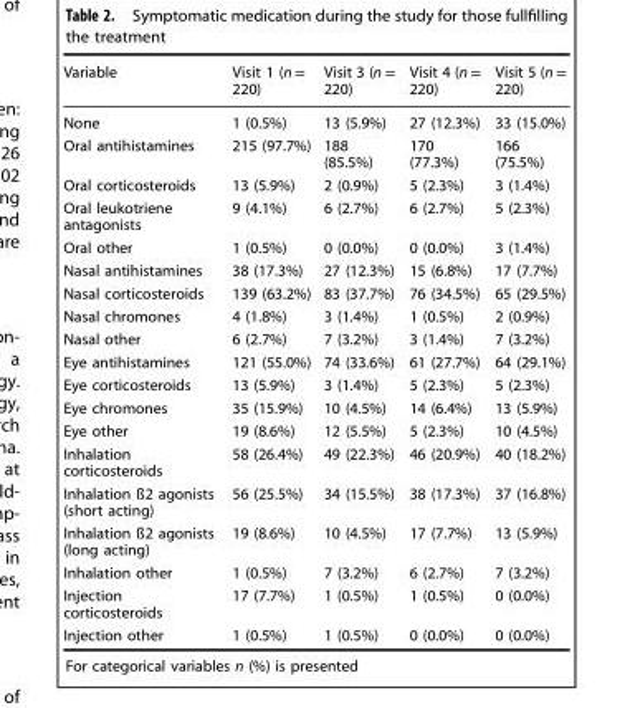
<table><thead><tr><td>Variable</td><td>Visit 1 (n = 220)</td><td>Visit 3 (n = 220)</td><td>Visit 4 (n = 220)</td><td>Visit 5 (n = 220)</td></tr></thead><tbody><tr><td>None</td><td>1 (0.5%)</td><td>13 (5.9%)</td><td>27 (12.3%)</td><td>33 (15.0%)</td></tr><tr><td>Oral antihistamines</td><td>215 (97.7%)</td><td>188 (85.5%)</td><td>170 (77.3%)</td><td>166 (75.5%)</td></tr><tr><td>Oral corticosteroids</td><td>13 (5.9%)</td><td>2 (0.9%)</td><td>5 (2.3%)</td><td>3 (1.4%)</td></tr><tr><td>Oral leukotriene antagonists</td><td>9 (4.1%)</td><td>6 (2.7%)</td><td>6 (2.7%)</td><td>5 (2.3%)</td></tr><tr><td>Oral other</td><td>1 (0.5%)</td><td>0 (0.0%)</td><td>0 (0.0%)</td><td>3 (1.4%)</td></tr><tr><td>Nasal antihistamines</td><td>38 (17.3%)</td><td>27 (12.3%)</td><td>15 (6.8%)</td><td>17 (7.7%)</td></tr><tr><td>Nasal corticosteroids</td><td>139 (63.2%)</td><td>83 (37.7%)</td><td>76 (34.5%)</td><td>65 (29.5%)</td></tr><tr><td>Nasal chromones</td><td>4 (1.8%)</td><td>3 (1.4%)</td><td>1 (0.5%)</td><td>2 (0.9%)</td></tr><tr><td>Nasal other</td><td>6 (2.7%)</td><td>7 (3.2%)</td><td>3 (1.4%)</td><td>7 (3.2%)</td></tr><tr><td>Eye antihistamines</td><td>121 (55.0%)</td><td>74 (33.6%)</td><td>61 (27.7%)</td><td>64 (29.1%)</td></tr><tr><td>Eye corticosteroids</td><td>13 (5.9%)</td><td>3 (1.4%)</td><td>5 (2.3%)</td><td>5 (2.3%)</td></tr><tr><td>Eye chromones</td><td>35 (15.9%)</td><td>10 (4.5%)</td><td>14 (6.4%)</td><td>13 (5.9%)</td></tr><tr><td>Eye other</td><td>19 (8.6%)</td><td>12 (5.5%)</td><td>5 (2.3%)</td><td>10 (4.5%)</td></tr><tr><td>Inhalation corticosteroids</td><td>58 (26.4%)</td><td>49 (22.3%)</td><td>46 (20.9%)</td><td>40 (18.2%)</td></tr><tr><td>Inhalation ß2 agonists (short acting)</td><td>56 (25.5%)</td><td>34 (15.5%)</td><td>38 (17.3%)</td><td>37 (16.8%)</td></tr><tr><td>Inhalation ß2 agonists (long acting)</td><td>19 (8.6%)</td><td>10 (4.5%)</td><td>17 (7.7%)</td><td>13 (5.9%)</td></tr><tr><td>Inhalation other</td><td>1 (0.5%)</td><td>7 (3.2%)</td><td>6 (2.7%)</td><td>7 (3.2%)</td></tr><tr><td>Injection corticosteroids</td><td>17 (7.7%)</td><td>1 (0.5%)</td><td>1 (0.5%)</td><td>0 (0.0%)</td></tr><tr><td>Injection other</td><td>1 (0.5%)</td><td>1 (0.5%)</td><td>0 (0.0%)</td><td>0 (0.0%)</td></tr></tbody></table>